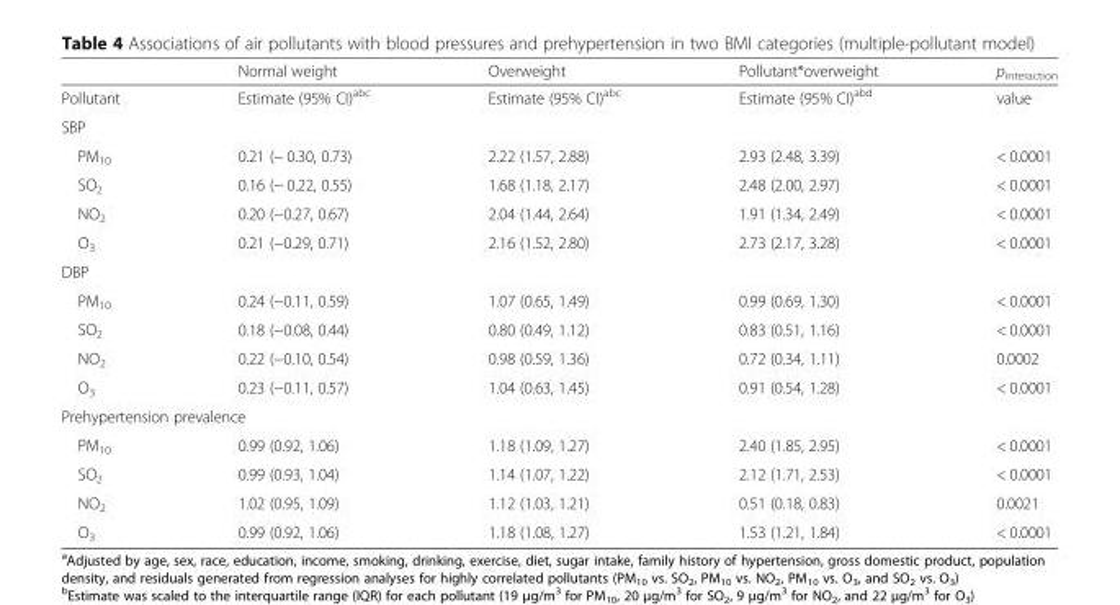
<table><thead><tr><td></td><td>Normal weight</td><td>Overweight</td><td>Pollutant*overweight</td><td>p<sub>interaction</sub></td></tr></thead><tbody><tr><td>Pollutant</td><td>Estimate (95% CI)<sup>abc</sup></td><td>Estimate (95% CI)<sup>abc</sup></td><td>Estimate (95% CI)<sup>abd</sup></td><td>value</td></tr><tr><td colspan="5">SBP</td></tr><tr><td>PM<sub>10</sub></td><td>0.21 (− 0.30, 0.73)</td><td>2.22 (1.57, 2.88)</td><td>2.93 (2.48, 3.39)</td><td>&lt; 0.0001</td></tr><tr><td>SO<sub>2</sub></td><td>0.16 (− 0.22, 0.55)</td><td>1.68 (1.18, 2.17)</td><td>2.48 (2.00, 2.97)</td><td>&lt; 0.0001</td></tr><tr><td>NO<sub>2</sub></td><td>0.20 (−0.27, 0.67)</td><td>2.04 (1.44, 2.64)</td><td>1.91 (1.34, 2.49)</td><td>&lt; 0.0001</td></tr><tr><td>O<sub>3</sub></td><td>0.21 (−0.29, 0.71)</td><td>2.16 (1.52, 2.80)</td><td>2.73 (2.17, 3.28)</td><td>&lt; 0.0001</td></tr><tr><td colspan="5">DBP</td></tr><tr><td>PM<sub>10</sub></td><td>0.24 (−0.11, 0.59)</td><td>1.07 (0.65, 1.49)</td><td>0.99 (0.69, 1.30)</td><td>&lt; 0.0001</td></tr><tr><td>SO<sub>2</sub></td><td>0.18 (−0.08, 0.44)</td><td>0.80 (0.49, 1.12)</td><td>0.83 (0.51, 1.16)</td><td>&lt; 0.0001</td></tr><tr><td>NO<sub>2</sub></td><td>0.22 (−0.10, 0.54)</td><td>0.98 (0.59, 1.36)</td><td>0.72 (0.34, 1.11)</td><td>0.0002</td></tr><tr><td>O<sub>3</sub></td><td>0.23 (−0.11, 0.57)</td><td>1.04 (0.63, 1.45)</td><td>0.91 (0.54, 1.28)</td><td>&lt; 0.0001</td></tr><tr><td colspan="5">Prehypertension prevalence</td></tr><tr><td>PM<sub>10</sub></td><td>0.99 (0.92, 1.06)</td><td>1.18 (1.09, 1.27)</td><td>2.40 (1.85, 2.95)</td><td>&lt; 0.0001</td></tr><tr><td>SO<sub>2</sub></td><td>0.99 (0.93, 1.04)</td><td>1.14 (1.07, 1.22)</td><td>2.12 (1.71, 2.53)</td><td>&lt; 0.0001</td></tr><tr><td>NO<sub>2</sub></td><td>1.02 (0.95, 1.09)</td><td>1.12 (1.03, 1.21)</td><td>0.51 (0.18, 0.83)</td><td>0.0021</td></tr><tr><td>O<sub>3</sub></td><td>0.99 (0.92, 1.06)</td><td>1.18 (1.08, 1.27)</td><td>1.53 (1.21, 1.84)</td><td>&lt; 0.0001</td></tr></tbody></table>